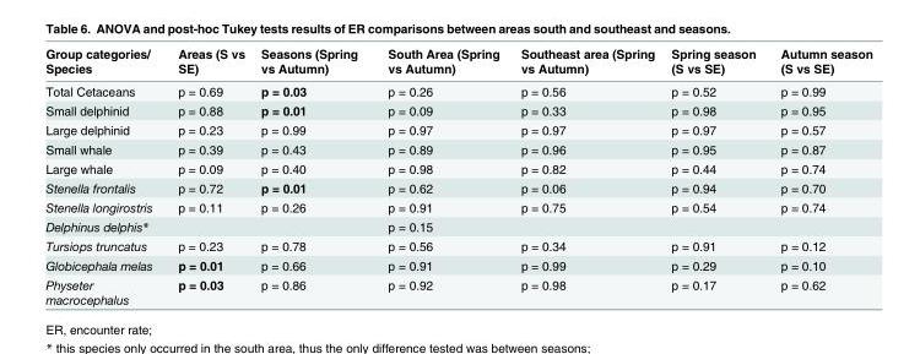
<table><thead><tr><td>Group categories/ Species</td><td>Areas (S vs SE)</td><td>Seasons (Spring vs Autumn)</td><td>South Area (Spring vs Autumn)</td><td>Southeast area (Spring vs Autumn)</td><td>Spring season (S vs SE)</td><td>Autumn season (S vs SE)</td></tr></thead><tbody><tr><td>Total Cetaceans</td><td>p = 0.69</td><td>p = 0.03</td><td>p = 0.26</td><td>p = 0.56</td><td>p = 0.52</td><td>p = 0.99</td></tr><tr><td>Small delphinid</td><td>p = 0.88</td><td>p = 0.01</td><td>p = 0.09</td><td>p = 0.33</td><td>p = 0.98</td><td>p = 0.95</td></tr><tr><td>Large delphinid</td><td>p = 0.23</td><td>p = 0.99</td><td>p = 0.97</td><td>p = 0.97</td><td>p = 0.97</td><td>p = 0.57</td></tr><tr><td>Small whale</td><td>p = 0.39</td><td>p = 0.43</td><td>p = 0.89</td><td>p = 0.96</td><td>p = 0.95</td><td>p = 0.87</td></tr><tr><td>Large whale</td><td>p = 0.09</td><td>p = 0.40</td><td>p = 0.98</td><td>p = 0.82</td><td>p = 0.44</td><td>p = 0.74</td></tr><tr><td>Stenella frontalis</td><td>p = 0.72</td><td>p = 0.01</td><td>p = 0.62</td><td>p = 0.06</td><td>p = 0.94</td><td>p = 0.70</td></tr><tr><td>Stenella longirostris</td><td>p = 0.11</td><td>p = 0.26</td><td>p = 0.91</td><td>p = 0.75</td><td>p = 0.54</td><td>p = 0.74</td></tr><tr><td>Delphinus delphis*</td><td></td><td></td><td>p = 0.15</td><td></td><td></td><td></td></tr><tr><td>Tursiops truncatus</td><td>p = 0.23</td><td>p = 0.78</td><td>p = 0.56</td><td>p = 0.34</td><td>p = 0.91</td><td>p = 0.12</td></tr><tr><td>Globicephala melas</td><td>p = 0.01</td><td>p = 0.66</td><td>p = 0.91</td><td>p = 0.99</td><td>p = 0.29</td><td>p = 0.10</td></tr><tr><td>Physeter macrocephalus</td><td>p = 0.03</td><td>p = 0.86</td><td>p = 0.92</td><td>p = 0.98</td><td>p = 0.17</td><td>p = 0.62</td></tr></tbody></table>